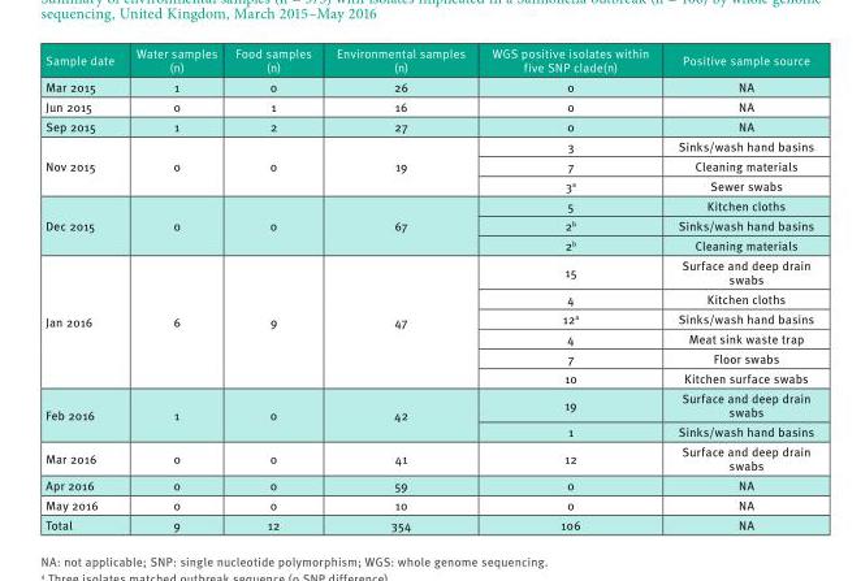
<table><thead><tr><td>Sample date</td><td>Water samples (n)</td><td>Food samples (n)</td><td>Environmental samples (n)</td><td>WGS positive isolates within five SNP clade(n)</td><td>Positive sample source</td></tr></thead><tbody><tr><td>Mar 2015</td><td>1</td><td>0</td><td>26</td><td>0</td><td>NA</td></tr><tr><td>Jun 2015</td><td>0</td><td>1</td><td>16</td><td>0</td><td>NA</td></tr><tr><td>Sep 2015</td><td>1</td><td>2</td><td>27</td><td>0</td><td>NA</td></tr><tr><td rowspan="3">Nov 2015</td><td rowspan="3">0</td><td rowspan="3">0</td><td rowspan="3">19</td><td>3</td><td>Sinks/wash hand basins</td></tr><tr><td>7</td><td>Cleaning materials</td></tr><tr><td>3<sup>a</sup></td><td>Sewer swabs</td></tr><tr><td rowspan="3">Dec 2015</td><td rowspan="3">0</td><td rowspan="3">0</td><td rowspan="3">67</td><td>5</td><td>Kitchen cloths</td></tr><tr><td>2<sup>b</sup></td><td>Sinks/wash hand basins</td></tr><tr><td>2<sup>b</sup></td><td>Cleaning materials</td></tr><tr><td rowspan="6">Jan 2016</td><td rowspan="6">6</td><td rowspan="6">9</td><td rowspan="6">47</td><td>15</td><td>Surface and deep drain swabs</td></tr><tr><td>4</td><td>Kitchen cloths</td></tr><tr><td>12<sup>a</sup></td><td>Sinks/wash hand basins</td></tr><tr><td>4</td><td>Meat sink waste trap</td></tr><tr><td>7</td><td>Floor swabs</td></tr><tr><td>10</td><td>Kitchen surface swabs</td></tr><tr><td rowspan="2">Feb 2016</td><td rowspan="2">1</td><td rowspan="2">0</td><td rowspan="2">42</td><td>19</td><td>Surface and deep drain swabs</td></tr><tr><td>1</td><td>Sinks/wash hand basins</td></tr><tr><td>Mar 2016</td><td>0</td><td>0</td><td>41</td><td>12</td><td>Surface and deep drain swabs</td></tr><tr><td>Apr 2016</td><td>0</td><td>0</td><td>59</td><td>0</td><td>NA</td></tr><tr><td>May 2016</td><td>0</td><td>0</td><td>10</td><td>0</td><td>NA</td></tr><tr><td>Total</td><td>9</td><td>12</td><td>354</td><td>106</td><td>NA</td></tr></tbody></table>